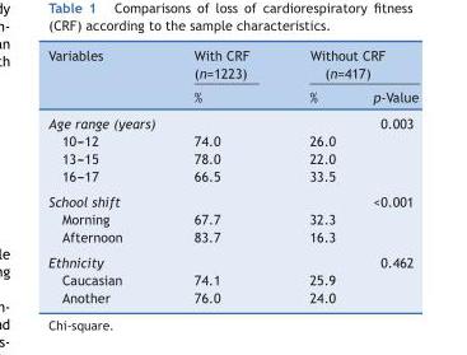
<table><thead><tr><td rowspan="2">Variables</td><td rowspan="2">With CRF (n=1223) %</td><td colspan="2">Without CRF (n=417)</td></tr><tr><td>%</td><td>p-Value</td></tr></thead><tbody><tr><td>Age range (years)</td><td></td><td></td><td>0.003</td></tr><tr><td>10---12</td><td>74.0</td><td>26.0</td><td></td></tr><tr><td>13---15</td><td>78.0</td><td>22.0</td><td></td></tr><tr><td>16---17</td><td>66.5</td><td>33.5</td><td></td></tr><tr><td>School shift</td><td></td><td></td><td>&lt;0.001</td></tr><tr><td>Morning</td><td>67.7</td><td>32.3</td><td></td></tr><tr><td>Afternoon</td><td>83.7</td><td>16.3</td><td></td></tr><tr><td>Ethnicity</td><td></td><td></td><td>0.462</td></tr><tr><td>Caucasian</td><td>74.1</td><td>25.9</td><td></td></tr><tr><td>Another</td><td>76.0</td><td>24.0</td><td></td></tr></tbody></table>